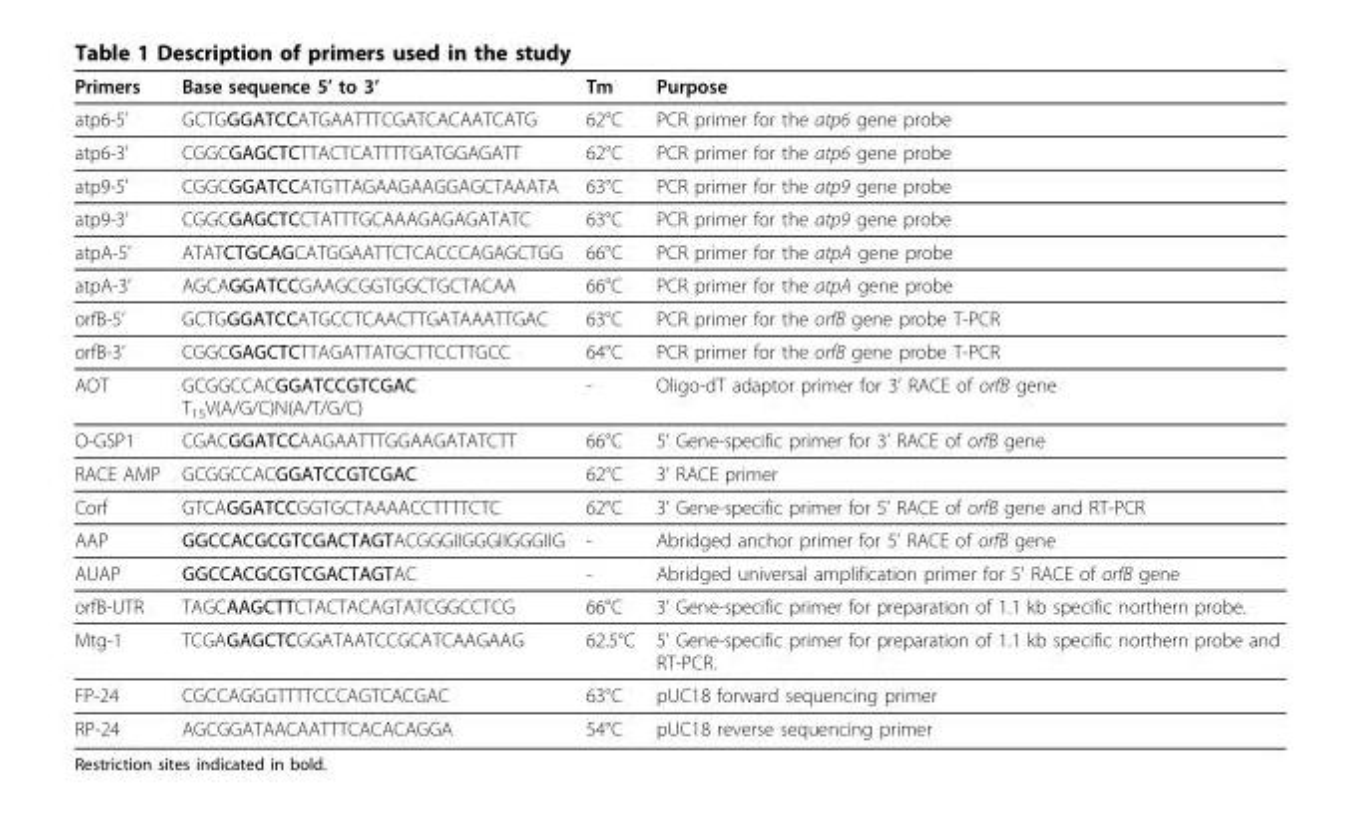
<table><thead><tr><td>Primers</td><td>Base sequence 5’ to 3’</td><td>Tm</td><td>Purpose</td></tr></thead><tbody><tr><td>atp6-5’</td><td>GCTGGGATCCATGAATTTCGATCACAATCATG</td><td>62°C</td><td>PCR primer for the atp6 gene probe</td></tr><tr><td>atp6-3’</td><td>CGGCGAGCTCTTACTCATTTTGATGGAGATT</td><td>62°C</td><td>PCR primer for the atp6 gene probe</td></tr><tr><td>atp9-5’</td><td>CGGCGGATCCATGTTAGAAGAAGGAGCTAAATA</td><td>63°C</td><td>PCR primer for the atp9 gene probe</td></tr><tr><td>atp9-3’</td><td>CGGCGAGCTCCTATTTGCAAAGAGAGATATC</td><td>63°C</td><td>PCR primer for the atp9 gene probe</td></tr><tr><td>atpA-5’</td><td>ATATCTGCAGCATGGAATTCTCACCCAGAGCTGG</td><td>66°C</td><td>PCR primer for the atpA gene probe</td></tr><tr><td>atpA-3’</td><td>AGCAGGATCCGAAGCGGTGGCTGCTACAA</td><td>66°C</td><td>PCR primer for the atpA gene probe</td></tr><tr><td>orfB-5’</td><td>GCTGGGATCCATGCCTCAACTTGATAAATTGAC</td><td>63°C</td><td>PCR primer for the orfB gene probe T-PCR</td></tr><tr><td>orfB-3’</td><td>CGGCGAGCTCTTAGATTATGCTTCCTTGCC</td><td>64°C</td><td>PCR primer for the orfB gene probe T-PCR</td></tr><tr><td>AOT</td><td>GCGGCCACGGATCCGTCGAC T<sub>15</sub>V(A/G/C)N(A/T/G/C)</td><td>-</td><td>Oligo-dT adaptor primer for 3’ RACE of orfB gene</td></tr><tr><td>O-GSP1</td><td>CGACGGATCCAAGAATTTGGAAGATATCTT</td><td>66°C</td><td>5’ Gene-specific primer for 3’ RACE of orfB gene</td></tr><tr><td>RACE AMP</td><td>GCGGCCACGGATCCGTCGAC</td><td>62°C</td><td>3’ RACE primer</td></tr><tr><td>Corf</td><td>GTCAGGATCCGGTGCTAAAACCTTTTCTC</td><td>62°C</td><td>3’ Gene-specific primer for 5’ RACE of orfB gene and RT-PCR</td></tr><tr><td>AAP</td><td>GGCCACGCGTCGACTAGTACGGGIIGGGIIGGGIIG</td><td>-</td><td>Abridged anchor primer for 5’ RACE of orfB gene</td></tr><tr><td>AUAP</td><td>GGCCACGCGTCGACTAGTAC</td><td>-</td><td>Abridged universal amplification primer for 5’ RACE of orfB gene</td></tr><tr><td>orfB-UTR</td><td>TAGCAAGCTTCTACTACAGTATCGGCCTCG</td><td>66°C</td><td>3’ Gene-specific primer for preparation of 1.1 kb specific northern probe.</td></tr><tr><td>Mtg-1</td><td>TCGAGAGCTCGGATAATCCGCATCAAGAAG</td><td>62.5°C</td><td>5’ Gene-specific primer for preparation of 1.1 kb specific northern probe and RT-PCR.</td></tr><tr><td>FP-24</td><td>CGCCAGGGTTTTCCCAGTCACGAC</td><td>63°C</td><td>pUC18 forward sequencing primer</td></tr><tr><td>RP-24</td><td>AGCGGATAACAATTTCACACAGGA</td><td>54°C</td><td>pUC18 reverse sequencing primer</td></tr></tbody></table>